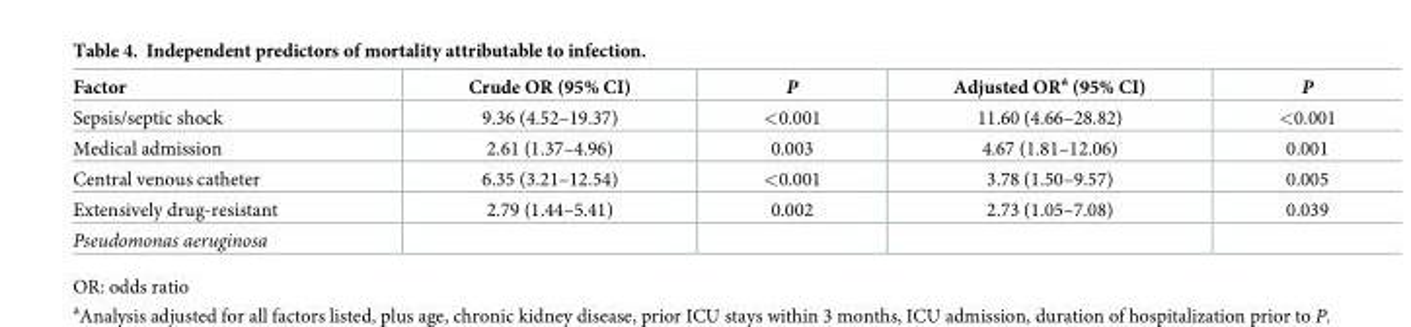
<table><thead><tr><td>Factor</td><td>Crude OR (95% CI)</td><td>P</td><td>Adjusted OR<sup>a</sup> (95% CI)</td><td>P</td></tr></thead><tbody><tr><td>Sepsis/septic shock</td><td>9.36 (4.52–19.37)</td><td>&lt;0.001</td><td>11.60 (4.66–28.82)</td><td>&lt;0.001</td></tr><tr><td>Medical admission</td><td>2.61 (1.37–4.96)</td><td>0.003</td><td>4.67 (1.81–12.06)</td><td>0.001</td></tr><tr><td>Central venous catheter</td><td>6.35 (3.21–12.54)</td><td>&lt;0.001</td><td>3.78 (1.50–9.57)</td><td>0.005</td></tr><tr><td>Extensively drug-resistant</td><td>2.79 (1.44–5.41)</td><td>0.002</td><td>2.73 (1.05–7.08)</td><td>0.039</td></tr><tr><td>Pseudomonas aeruginosa</td><td></td><td></td><td></td><td></td></tr></tbody></table>